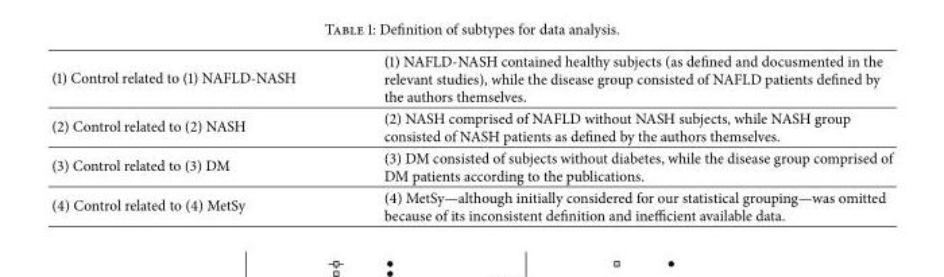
<table><tbody><tr><td>(1) Control related to (1) NAFLD-NASH</td><td>(1) NAFLD-NASH contained healthy subjects (as defined and docusmented in the relevant studies), while the disease group consisted of NAFLD patients defined by the authors themselves.</td></tr><tr><td>(2) Control related to (2) NASH</td><td>(2) NASH comprised of NAFLD without NASH subjects, while NASH group consisted of NASH patients as defined by the authors themselves.</td></tr><tr><td>(3) Control related to (3) DM</td><td>(3) DM consisted of subjects without diabetes, while the disease group comprised of DM patients according to the publications.</td></tr><tr><td>(4) Control related to (4) MetSy</td><td>(4) MetSy—although initially considered for our statistical grouping—was omitted because of its inconsistent definition and inefficient available data.</td></tr></tbody></table>